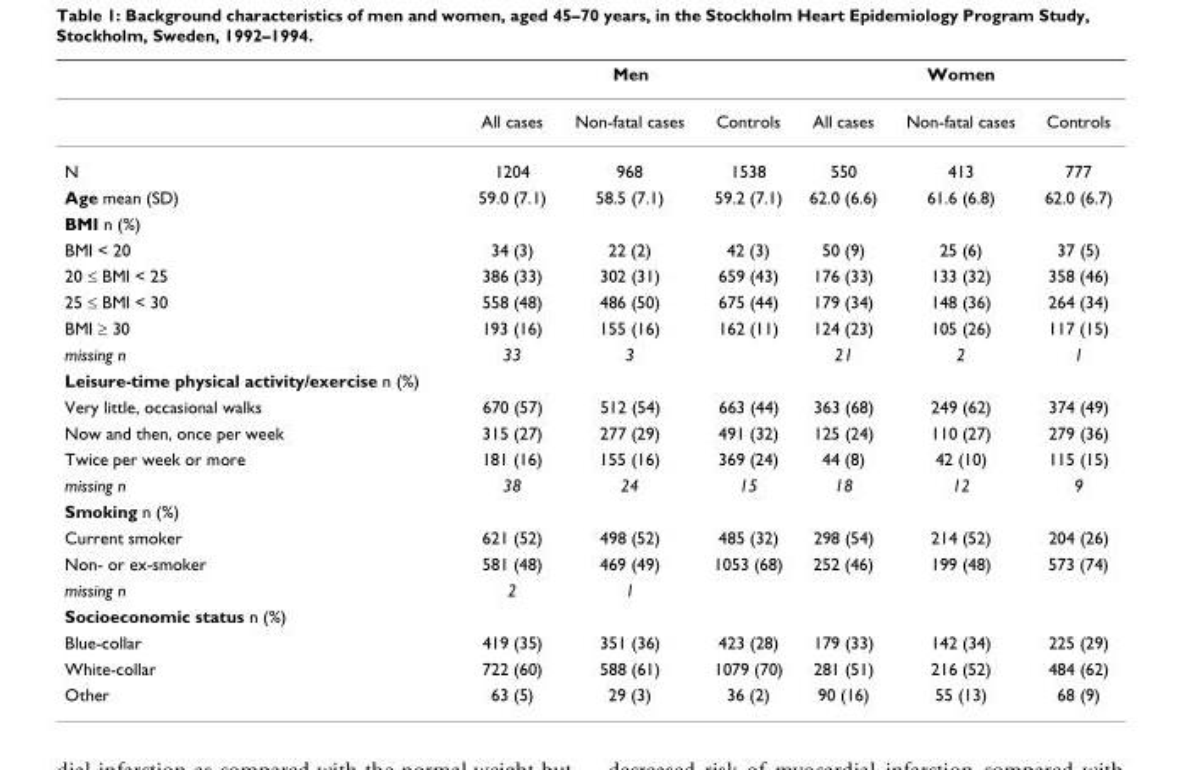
<table><thead><tr><td rowspan="2"></td><td colspan="3">Men</td><td colspan="3">Women</td></tr><tr><td>All cases</td><td>Non-fatal cases</td><td>Controls</td><td>All cases</td><td>Non-fatal cases</td><td>Controls</td></tr></thead><tbody><tr><td>N</td><td>1204</td><td>968</td><td>1538</td><td>550</td><td>413</td><td>777</td></tr><tr><td>Age mean (SD)</td><td>59.0 (7.1)</td><td>58.5 (7.1)</td><td>59.2 (7.1)</td><td>62.0 (6.6)</td><td>61.6 (6.8)</td><td>62.0 (6.7)</td></tr><tr><td colspan="7">BMI n (%)</td></tr><tr><td>BMI &lt; 20</td><td>34 (3)</td><td>22 (2)</td><td>42 (3)</td><td>50 (9)</td><td>25 (6)</td><td>37 (5)</td></tr><tr><td>20 ≤ BMI &lt; 25</td><td>386 (33)</td><td>302 (31)</td><td>659 (43)</td><td>176 (33)</td><td>133 (32)</td><td>358 (46)</td></tr><tr><td>25 ≤ BMI &lt; 30</td><td>558 (48)</td><td>486 (50)</td><td>675 (44)</td><td>179 (34)</td><td>148 (36)</td><td>264 (34)</td></tr><tr><td>BMI ≥ 30</td><td>193 (16)</td><td>155 (16)</td><td>162 (11)</td><td>124 (23)</td><td>105 (26)</td><td>117 (15)</td></tr><tr><td>missing n</td><td>33</td><td>3</td><td></td><td>21</td><td>2</td><td>1</td></tr><tr><td colspan="7">Leisure-time physical activity/exercise n (%)</td></tr><tr><td>Very little, occasional walks</td><td>670 (57)</td><td>512 (54)</td><td>663 (44)</td><td>363 (68)</td><td>249 (62)</td><td>374 (49)</td></tr><tr><td>Now and then, once per week</td><td>315 (27)</td><td>277 (29)</td><td>491 (32)</td><td>125 (24)</td><td>110 (27)</td><td>279 (36)</td></tr><tr><td>Twice per week or more</td><td>181 (16)</td><td>155 (16)</td><td>369 (24)</td><td>44 (8)</td><td>42 (10)</td><td>115 (15)</td></tr><tr><td>missing n</td><td>38</td><td>24</td><td>15</td><td>18</td><td>12</td><td>9</td></tr><tr><td colspan="7">Smoking n (%)</td></tr><tr><td>Current smoker</td><td>621 (52)</td><td>498 (52)</td><td>485 (32)</td><td>298 (54)</td><td>214 (52)</td><td>204 (26)</td></tr><tr><td>Non- or ex-smoker</td><td>581 (48)</td><td>469 (49)</td><td>1053 (68)</td><td>252 (46)</td><td>199 (48)</td><td>573 (74)</td></tr><tr><td>missing n</td><td>2</td><td>1</td><td></td><td></td><td></td><td></td></tr><tr><td colspan="7">Socioeconomic status n (%)</td></tr><tr><td>Blue-collar</td><td>419 (35)</td><td>351 (36)</td><td>423 (28)</td><td>179 (33)</td><td>142 (34)</td><td>225 (29)</td></tr><tr><td>White-collar</td><td>722 (60)</td><td>588 (61)</td><td>1079 (70)</td><td>281 (51)</td><td>216 (52)</td><td>484 (62)</td></tr><tr><td>Other</td><td>63 (5)</td><td>29 (3)</td><td>36 (2)</td><td>90 (16)</td><td>55 (13)</td><td>68 (9)</td></tr></tbody></table>